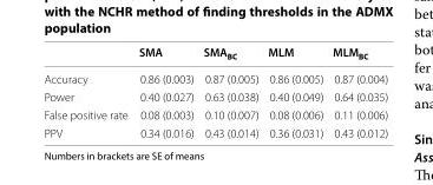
<table><thead><tr><td></td><td>SMA</td><td>SMA<sub>BC</sub></td><td>MLM</td><td>MLM<sub>BC</sub></td></tr></thead><tbody><tr><td>Accuracy</td><td>0.86 (0.003)</td><td>0.87 (0.005)</td><td>0.86 (0.005)</td><td>0.87 (0.004)</td></tr><tr><td>Power</td><td>0.40 (0.027)</td><td>0.63 (0.038)</td><td>0.40 (0.049)</td><td>0.64 (0.035)</td></tr><tr><td>False positive rate</td><td>0.08 (0.003)</td><td>0.10 (0.007)</td><td>0.08 (0.006)</td><td>0.11 (0.006)</td></tr><tr><td>PPV</td><td>0.34 (0.016)</td><td>0.43 (0.014)</td><td>0.36 (0.031)</td><td>0.43 (0.012)</td></tr></tbody></table>